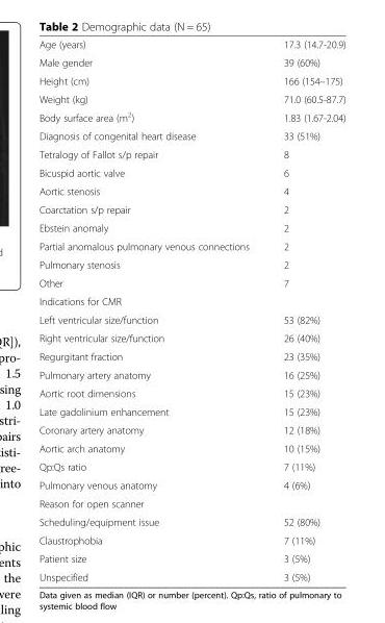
<table><tbody><tr><td>Age (years)</td><td>17.3 (14.7-20.9)</td></tr><tr><td>Male gender</td><td>39 (60%)</td></tr><tr><td>Height (cm)</td><td>166 (154–175)</td></tr><tr><td>Weight (kg)</td><td>71.0 (60.5-87.7)</td></tr><tr><td>Body surface area (m<sup>2</sup>)</td><td>1.83 (1.67-2.04)</td></tr><tr><td>Diagnosis of congenital heart disease</td><td>33 (51%)</td></tr><tr><td>Tetralogy of Fallot s/p repair</td><td>8</td></tr><tr><td>Bicuspid aortic valve</td><td>6</td></tr><tr><td>Aortic stenosis</td><td>4</td></tr><tr><td>Coarctation s/p repair</td><td>2</td></tr><tr><td>Ebstein anomaly</td><td>2</td></tr><tr><td>Partial anomalous pulmonary venous connections</td><td>2</td></tr><tr><td>Pulmonary stenosis</td><td>2</td></tr><tr><td>Other</td><td>7</td></tr><tr><td colspan="2">Indications for CMR</td></tr><tr><td>Left ventricular size/function</td><td>53 (82%)</td></tr><tr><td>Right ventricular size/function</td><td>26 (40%)</td></tr><tr><td>Regurgitant fraction</td><td>23 (35%)</td></tr><tr><td>Pulmonary artery anatomy</td><td>16 (25%)</td></tr><tr><td>Aortic root dimensions</td><td>15 (23%)</td></tr><tr><td>Late gadolinium enhancement</td><td>15 (23%)</td></tr><tr><td>Coronary artery anatomy</td><td>12 (18%)</td></tr><tr><td>Aortic arch anatomy</td><td>10 (15%)</td></tr><tr><td>Qp:Qs ratio</td><td>7 (11%)</td></tr><tr><td>Pulmonary venous anatomy</td><td>4 (6%)</td></tr><tr><td colspan="2">Reason for open scanner</td></tr><tr><td>Scheduling/equipment issue</td><td>52 (80%)</td></tr><tr><td>Claustrophobia</td><td>7 (11%)</td></tr><tr><td>Patient size</td><td>3 (5%)</td></tr><tr><td>Unspecified</td><td>3 (5%)</td></tr></tbody></table>